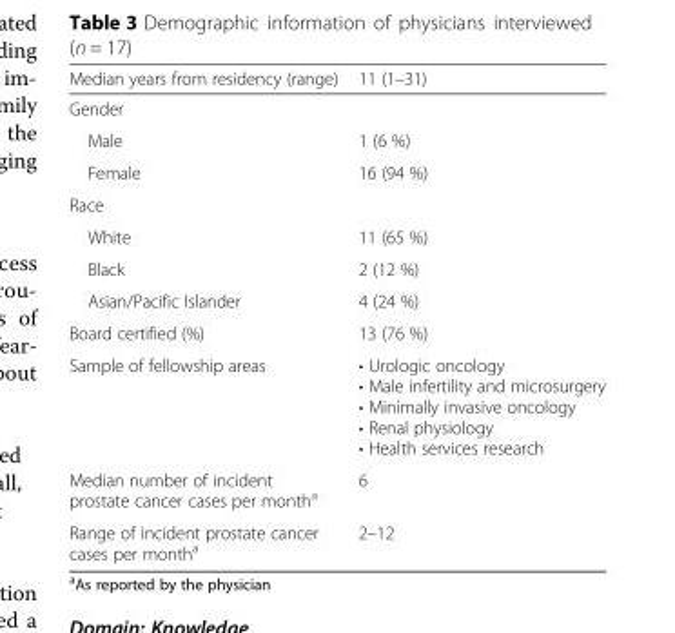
<table><thead><tr><td>Median years from residency (range)</td><td>11 (1–31)</td></tr></thead><tbody><tr><td colspan="2">Gender</td></tr><tr><td>Male</td><td>1 (6 %)</td></tr><tr><td>Female</td><td>16 (94 %)</td></tr><tr><td colspan="2">Race</td></tr><tr><td>White</td><td>11 (65 %)</td></tr><tr><td>Black</td><td>2 (12 %)</td></tr><tr><td>Asian/Pacific Islander</td><td>4 (24 %)</td></tr><tr><td>Board certified (%)</td><td>13 (76 %)</td></tr><tr><td>Sample of fellowship areas</td><td>• Urologic oncology • Male infertility and microsurgery • Minimally invasive oncology • Renal physiology • Health services research</td></tr><tr><td>Median number of incident prostate cancer cases per month<sup>a</sup></td><td>6</td></tr><tr><td>Range of incident prostate cancer cases per month<sup>a</sup></td><td>2–12</td></tr></tbody></table>